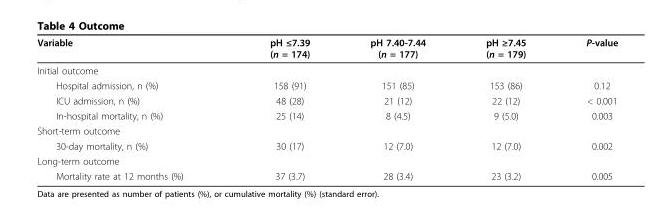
<table><thead><tr><td>Variable</td><td>pH ≤7.39 (n = 174)</td><td>pH 7.40-7.44 (n = 177)</td><td>pH ≥7.45 (n = 179)</td><td>P-value</td></tr></thead><tbody><tr><td colspan="5">Initial outcome</td></tr><tr><td>Hospital admission, n (%)</td><td>158 (91)</td><td>151 (85)</td><td>153 (86)</td><td>0.12</td></tr><tr><td>ICU admission, n (%)</td><td>48 (28)</td><td>21 (12)</td><td>22 (12)</td><td>&lt; 0.001</td></tr><tr><td>In-hospital mortality, n (%)</td><td>25 (14)</td><td>8 (4.5)</td><td>9 (5.0)</td><td>0.003</td></tr><tr><td colspan="5">Short-term outcome</td></tr><tr><td>30-day mortality, n (%)</td><td>30 (17)</td><td>12 (7.0)</td><td>12 (7.0)</td><td>0.002</td></tr><tr><td colspan="5">Long-term outcome</td></tr><tr><td>Mortality rate at 12 months (%)</td><td>37 (3.7)</td><td>28 (3.4)</td><td>23 (3.2)</td><td>0.005</td></tr></tbody></table>